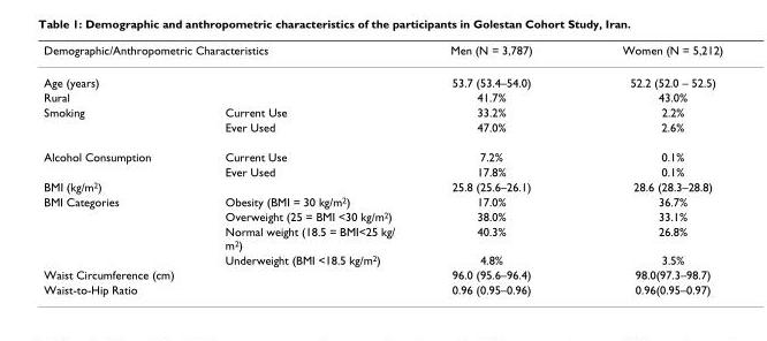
<table><thead><tr><td colspan="2">Demographic/Anthropometric Characteristics</td><td rowspan="2">Men (N = 3,787) 53.7 (53.4–54.0)</td><td rowspan="2">Women (N = 5,212) 52.2 (52.0 – 52.5)</td></tr><tr><td>Age (years)</td><td></td></tr></thead><tbody><tr><td>Rural</td><td></td><td>41.7%</td><td>43.0%</td></tr><tr><td rowspan="2">Smoking</td><td>Current Use</td><td>33.2%</td><td>2.2%</td></tr><tr><td>Ever Used</td><td>47.0%</td><td>2.6%</td></tr><tr><td rowspan="2">Alcohol Consumption</td><td>Current Use</td><td>7.2%</td><td>0.1%</td></tr><tr><td>Ever Used</td><td>17.8%</td><td>0.1%</td></tr><tr><td>BMI (kg/m2)</td><td></td><td>25.8 (25.6–26.1)</td><td>28.6 (28.3–28.8)</td></tr><tr><td rowspan="4">BMI Categories</td><td>Obesity (BMI = 30 kg/m2)</td><td>17.0%</td><td>36.7%</td></tr><tr><td>Overweight (25 = BMI &lt;30 kg/m2)</td><td>38.0%</td><td>33.1%</td></tr><tr><td>Normal weight (18.5 = BMI&lt;25 kg/ m2)</td><td>40.3%</td><td>26.8%</td></tr><tr><td>Underweight (BMI &lt;18.5 kg/m2)</td><td>4.8%</td><td>3.5%</td></tr><tr><td>Waist Circumference (cm)</td><td></td><td>96.0 (95.6–96.4)</td><td>98.0(97.3–98.7)</td></tr><tr><td>Waist-to-Hip Ratio</td><td></td><td>0.96 (0.95–0.96)</td><td>0.96(0.95–0.97)</td></tr></tbody></table>